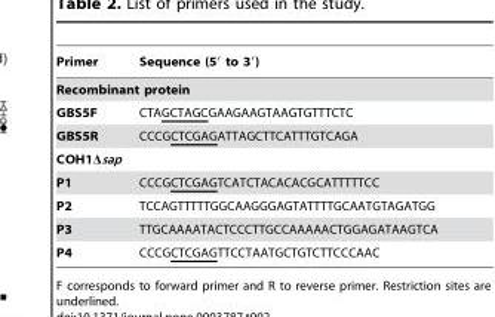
<table><thead><tr><td>Primer</td><td>Sequence (5′ to 3′)</td></tr></thead><tbody><tr><td colspan="2">Recombinant protein</td></tr><tr><td>GBS5F</td><td>CTAGCTAGCGAAGAAGTAAGTGTTTCTC</td></tr><tr><td>GBS5R</td><td>CCCGCTCGAGATTAGCTTCATTTGTCAGA</td></tr><tr><td colspan="2">COH1Δsap</td></tr><tr><td>P1</td><td>CCCGCTCGAGTCATCTACACACGCATTTTTCC</td></tr><tr><td>P2</td><td>TCCAGTTTTTGGCAAGGGAGTATTTTGCAATGTAGATGG</td></tr><tr><td>P3</td><td>TTGCAAAATACTCCCTTGCCAAAAACTGGAGATAAGTCA</td></tr><tr><td>P4</td><td>CCCGCTCGAGTTCCTAATGCTGTCTTCCCAAC</td></tr></tbody></table>